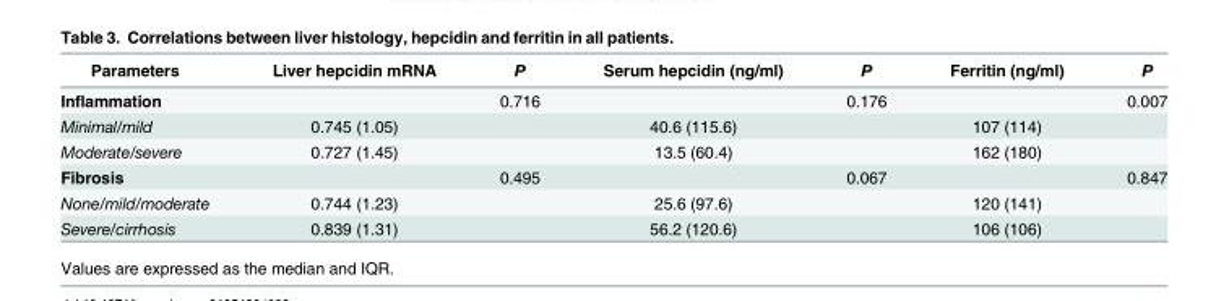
<table><thead><tr><td>Parameters</td><td>Liver hepcidin mRNA</td><td>P</td><td>Serum hepcidin (ng/ml)</td><td>P</td><td>Ferritin (ng/ml)</td><td>P</td></tr></thead><tbody><tr><td>Inflammation</td><td></td><td>0.716</td><td></td><td>0.176</td><td></td><td>0.007</td></tr><tr><td>Minimal/mild</td><td>0.745 (1.05)</td><td></td><td>40.6 (115.6)</td><td></td><td>107 (114)</td><td></td></tr><tr><td>Moderate/severe</td><td>0.727 (1.45)</td><td></td><td>13.5 (60.4)</td><td></td><td>162 (180)</td><td></td></tr><tr><td>Fibrosis</td><td></td><td>0.495</td><td></td><td>0.067</td><td></td><td>0.847</td></tr><tr><td>None/mild/moderate</td><td>0.744 (1.23)</td><td></td><td>25.6 (97.6)</td><td></td><td>120 (141)</td><td></td></tr><tr><td>Severe/cirrhosis</td><td>0.839 (1.31)</td><td></td><td>56.2 (120.6)</td><td></td><td>106 (106)</td><td></td></tr></tbody></table>